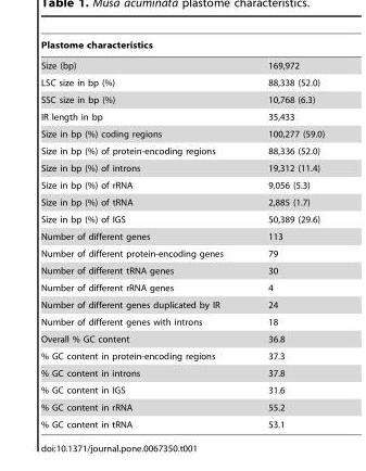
<table><thead><tr><td>Plastome characteristics</td><td></td></tr></thead><tbody><tr><td>Size (bp)</td><td>169,972</td></tr><tr><td>LSC size in bp (%)</td><td>88,338 (52.0)</td></tr><tr><td>SSC size in bp (%)</td><td>10,768 (6.3)</td></tr><tr><td>IR length in bp</td><td>35,433</td></tr><tr><td>Size in bp (%) coding regions</td><td>100,277 (59.0)</td></tr><tr><td>Size in bp (%) of protein-encoding regions</td><td>88,336 (52.0)</td></tr><tr><td>Size in bp (%) of introns</td><td>19,312 (11.4)</td></tr><tr><td>Size in bp (%) of rRNA</td><td>9,056 (5.3)</td></tr><tr><td>Size in bp (%) of tRNA</td><td>2,885 (1.7)</td></tr><tr><td>Size in bp (%) of IGS</td><td>50,389 (29.6)</td></tr><tr><td>Number of different genes</td><td>113</td></tr><tr><td>Number of different protein-encoding genes</td><td>79</td></tr><tr><td>Number of different tRNA genes</td><td>30</td></tr><tr><td>Number of different rRNA genes</td><td>4</td></tr><tr><td>Number of different genes duplicated by IR</td><td>24</td></tr><tr><td>Number of different genes with introns</td><td>18</td></tr><tr><td>Overall % GC content</td><td>36.8</td></tr><tr><td>% GC content in protein-encoding regions</td><td>37.3</td></tr><tr><td>% GC content in introns</td><td>37.8</td></tr><tr><td>% GC content in IGS</td><td>31.6</td></tr><tr><td>% GC content in rRNA</td><td>55.2</td></tr><tr><td>% GC content in tRNA</td><td>53.1</td></tr></tbody></table>